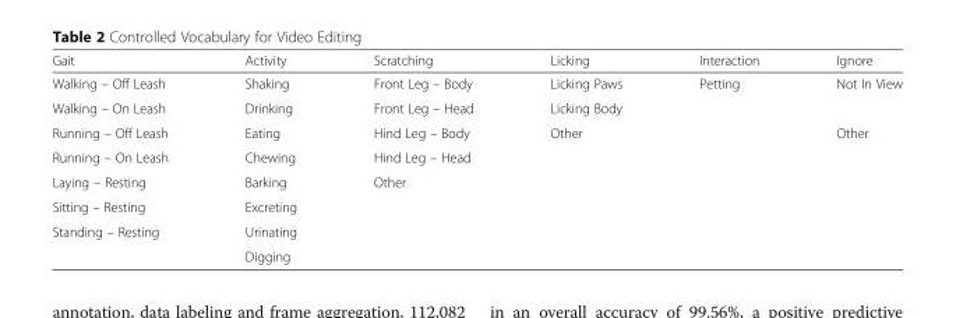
<table><thead><tr><td>Gait</td><td>Activity</td><td>Scratching</td><td>Licking</td><td>Interaction</td><td>Ignore</td></tr></thead><tbody><tr><td>Walking – Off Leash</td><td>Shaking</td><td>Front Leg – Body</td><td>Licking Paws</td><td>Petting</td><td>Not In View</td></tr><tr><td>Walking – On Leash</td><td>Drinking</td><td>Front Leg – Head</td><td>Licking Body</td><td></td><td></td></tr><tr><td>Running – Off Leash</td><td>Eating</td><td>Hind Leg – Body</td><td rowspan="6">Other</td><td rowspan="6"></td><td rowspan="6">Other</td></tr><tr><td>Running – On Leash</td><td>Chewing</td><td>Hind Leg – Head</td></tr><tr><td>Laying – Resting</td><td>Barking</td><td rowspan="4">Other</td></tr><tr><td>Sitting – Resting</td><td>Excreting</td></tr><tr><td rowspan="2">Standing – Resting</td><td>Urinating</td></tr><tr><td>Digging</td></tr></tbody></table>